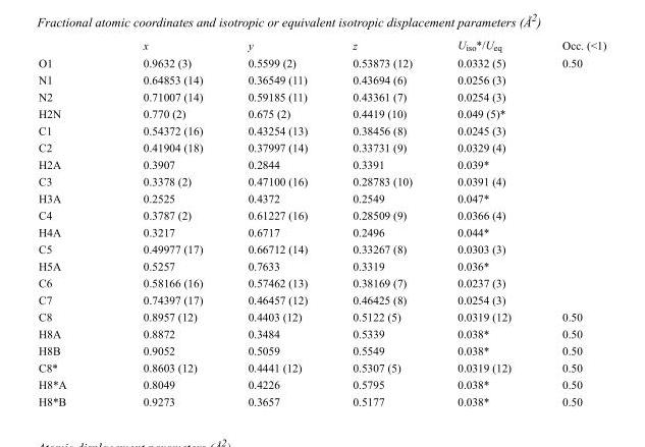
<table><thead><tr><td></td><td>x</td><td>y</td><td>z</td><td>U<sub>iso</sub>*/U<sub>eq</sub></td><td>Occ. (&lt;1)</td></tr></thead><tbody><tr><td>O1</td><td>0.9632 (3)</td><td>0.5599 (2)</td><td>0.53873 (12)</td><td>0.0332 (5)</td><td>0.50</td></tr><tr><td>N1</td><td>0.64853 (14)</td><td>0.36549 (11)</td><td>0.43694 (6)</td><td>0.0256 (3)</td><td></td></tr><tr><td>N2</td><td>0.71007 (14)</td><td>0.59185 (11)</td><td>0.43361 (7)</td><td>0.0254 (3)</td><td></td></tr><tr><td>H2N</td><td>0.770 (2)</td><td>0.675 (2)</td><td>0.4419 (10)</td><td>0.049 (5)*</td><td></td></tr><tr><td>C1</td><td>0.54372 (16)</td><td>0.43254 (13)</td><td>0.38456 (8)</td><td>0.0245 (3)</td><td></td></tr><tr><td>C2</td><td>0.41904 (18)</td><td>0.37997 (14)</td><td>0.33731 (9)</td><td>0.0329 (4)</td><td></td></tr><tr><td>H2A</td><td>0.3907</td><td>0.2844</td><td>0.3391</td><td>0.039*</td><td></td></tr><tr><td>C3</td><td>0.3378 (2)</td><td>0.47100 (16)</td><td>0.28783 (10)</td><td>0.0391 (4)</td><td></td></tr><tr><td>H3A</td><td>0.2525</td><td>0.4372</td><td>0.2549</td><td>0.047*</td><td></td></tr><tr><td>C4</td><td>0.3787 (2)</td><td>0.61227 (16)</td><td>0.28509 (9)</td><td>0.0366 (4)</td><td></td></tr><tr><td>H4A</td><td>0.3217</td><td>0.6717</td><td>0.2496</td><td>0.044*</td><td></td></tr><tr><td>C5</td><td>0.49977 (17)</td><td>0.66712 (14)</td><td>0.33267 (8)</td><td>0.0303 (3)</td><td></td></tr><tr><td>H5A</td><td>0.5257</td><td>0.7633</td><td>0.3319</td><td>0.036*</td><td></td></tr><tr><td>C6</td><td>0.58166 (16)</td><td>0.57462 (13)</td><td>0.38169 (7)</td><td>0.0237 (3)</td><td></td></tr><tr><td>C7</td><td>0.74397 (17)</td><td>0.46457 (12)</td><td>0.46425 (8)</td><td>0.0254 (3)</td><td></td></tr><tr><td>C8</td><td>0.8957 (12)</td><td>0.4403 (12)</td><td>0.5122 (5)</td><td>0.0319 (12)</td><td>0.50</td></tr><tr><td>H8A</td><td>0.8872</td><td>0.3484</td><td>0.5339</td><td>0.038*</td><td>0.50</td></tr><tr><td>H8B</td><td>0.9052</td><td>0.5059</td><td>0.5549</td><td>0.038*</td><td>0.50</td></tr><tr><td>C8*</td><td>0.8603 (12)</td><td>0.4441 (12)</td><td>0.5307 (5)</td><td>0.0319 (12)</td><td>0.50</td></tr><tr><td>H8*A</td><td>0.8049</td><td>0.4226</td><td>0.5795</td><td>0.038*</td><td>0.50</td></tr><tr><td>H8*B</td><td>0.9273</td><td>0.3657</td><td>0.5177</td><td>0.038*</td><td>0.50</td></tr></tbody></table>